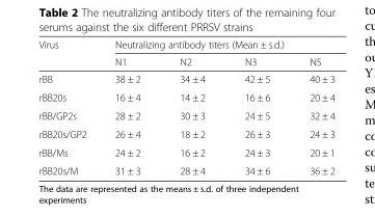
<table><thead><tr><td rowspan="2">Virus</td><td colspan="4">Neutralizing antibody titers (Mean ± s.d.)</td></tr><tr><td>N1</td><td>N2</td><td>N3</td><td>N5</td></tr></thead><tbody><tr><td>rBB</td><td>38 ± 2</td><td>34 ± 4</td><td>42 ± 5</td><td>40 ± 3</td></tr><tr><td>rBB20s</td><td>16 ± 4</td><td>14 ± 2</td><td>16 ± 6</td><td>20 ± 4</td></tr><tr><td>rBB/GP2s</td><td>28 ± 2</td><td>30 ± 3</td><td>24 ± 5</td><td>32 ± 4</td></tr><tr><td>rBB20s/GP2</td><td>26 ± 4</td><td>18 ± 2</td><td>26 ± 3</td><td>24 ± 3</td></tr><tr><td>rBB/Ms</td><td>24 ± 2</td><td>16 ± 2</td><td>24 ± 3</td><td>20 ± 1</td></tr><tr><td>rBB20s/M</td><td>31 ± 3</td><td>28 ± 4</td><td>34 ± 6</td><td>36 ± 2</td></tr></tbody></table>